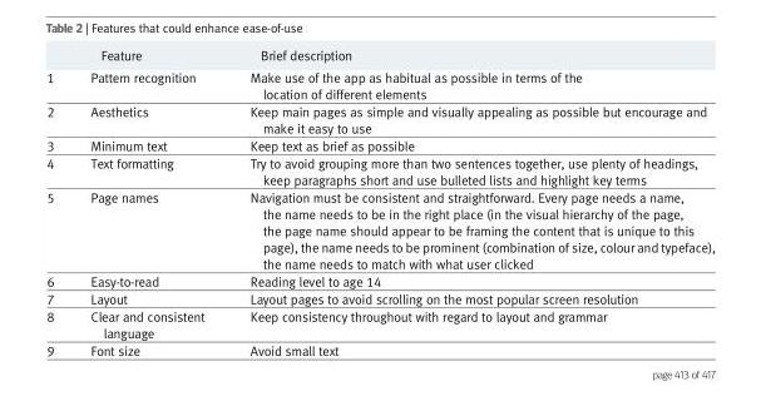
<table><thead><tr><td></td><td>Feature</td><td>Brief description</td></tr></thead><tbody><tr><td>1</td><td>Pattern recognition</td><td>Make use of the app as habitual as possible in terms of the location of different elements</td></tr><tr><td>2</td><td>Aesthetics</td><td>Keep main pages as simple and visually appealing as possible but encourage and make it easy to use</td></tr><tr><td>3</td><td>Minimum text</td><td>Keep text as brief as possible</td></tr><tr><td>4</td><td>Text formatting</td><td>Try to avoid grouping more than two sentences together, use plenty of headings, keep paragraphs short and use bulleted lists and highlight key terms</td></tr><tr><td>5</td><td>Page names</td><td>Navigation must be consistent and straightforward. Every page needs a name, the name needs to be in the right place (in the visual hierarchy of the page, the page name should appear to be framing the content that is unique to this page), the name needs to be prominent (combination of size, colour and typeface), the name needs to match with what user clicked</td></tr><tr><td>6</td><td>Easy-to-read</td><td>Reading level to age 14</td></tr><tr><td>7</td><td>Layout</td><td>Layout pages to avoid scrolling on the most popular screen resolution</td></tr><tr><td>8</td><td>Clear and consistent language</td><td>Keep consistency throughout with regard to layout and grammar</td></tr><tr><td>9</td><td>Font size</td><td>Avoid small text</td></tr></tbody></table>